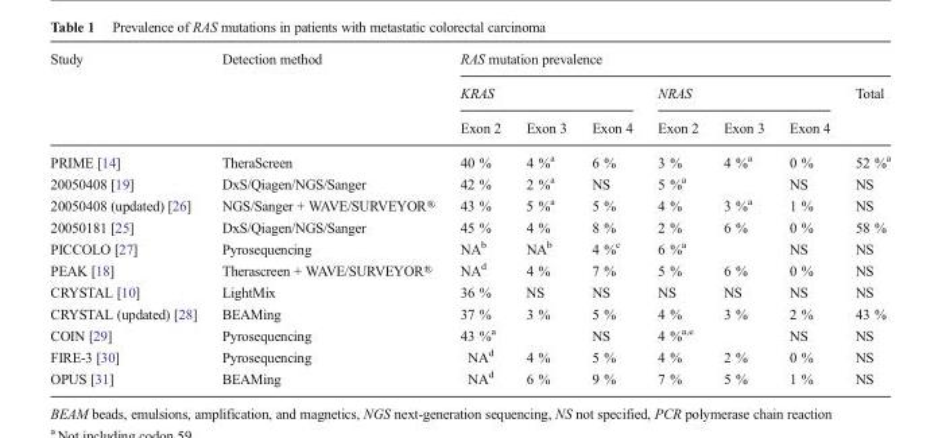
<table><thead><tr><td rowspan="3">Study</td><td rowspan="3">Detection method</td><td colspan="7">RAS mutation prevalence</td></tr><tr><td colspan="3">KRAS</td><td colspan="3">NRAS</td><td rowspan="2">Total</td></tr><tr><td>Exon 2</td><td>Exon 3</td><td>Exon 4</td><td>Exon 2</td><td>Exon 3</td><td>Exon 4</td></tr></thead><tbody><tr><td>PRIME [14]</td><td>TheraScreen</td><td>40 %</td><td>4 %<sup>a</sup></td><td>6 %</td><td>3 %</td><td>4 %<sup>a</sup></td><td>0 %</td><td>52 %<sup>a</sup></td></tr><tr><td>20050408 [19]</td><td>DxS/Qiagen/NGS/Sanger</td><td>42 %</td><td>2 %<sup>a</sup></td><td>NS</td><td colspan="2">5 %<sup>a</sup></td><td>NS</td><td>NS</td></tr><tr><td>20050408 (updated) [26]</td><td>NGS/Sanger + WAVE/SURVEYOR®</td><td>43 %</td><td>5 %<sup>a</sup></td><td>5 %</td><td>4 %</td><td>3 %<sup>a</sup></td><td>1 %</td><td>NS</td></tr><tr><td>20050181 [25]</td><td>DxS/Qiagen/NGS/Sanger</td><td>45 %</td><td>4 %</td><td>8 %</td><td>2 %</td><td>6 %</td><td>0 %</td><td>58 %</td></tr><tr><td>PICCOLO [27]</td><td>Pyrosequencing</td><td>NA<sup>b</sup></td><td>NA<sup>b</sup></td><td>4 %<sup>c</sup></td><td colspan="2">6 %<sup>a</sup></td><td>NS</td><td>NS</td></tr><tr><td>PEAK [18]</td><td>Therascreen + WAVE/SURVEYOR®</td><td>NA<sup>d</sup></td><td>4 %</td><td>7 %</td><td>5 %</td><td>6 %</td><td>0 %</td><td>NS</td></tr><tr><td>CRYSTAL [10]</td><td>LightMix</td><td>36 %</td><td>NS</td><td>NS</td><td>NS</td><td>NS</td><td>NS</td><td>NS</td></tr><tr><td>CRYSTAL (updated) [28]</td><td>BEAMing</td><td>37 %</td><td>3 %</td><td>5 %</td><td>4 %</td><td>3 %</td><td>2 %</td><td>43 %</td></tr><tr><td>COIN [29]</td><td>Pyrosequencing</td><td colspan="2">43 %<sup>a</sup></td><td>NS</td><td colspan="2">4 %<sup>a,e</sup></td><td>NS</td><td>NS</td></tr><tr><td>FIRE-3 [30]</td><td>Pyrosequencing</td><td>NA<sup>d</sup></td><td>4 %</td><td>5 %</td><td>4 %</td><td>2 %</td><td>0 %</td><td>NS</td></tr><tr><td>OPUS [31]</td><td>BEAMing</td><td>NA<sup>d</sup></td><td>6 %</td><td>9 %</td><td>7 %</td><td>5 %</td><td>1 %</td><td>NS</td></tr></tbody></table>